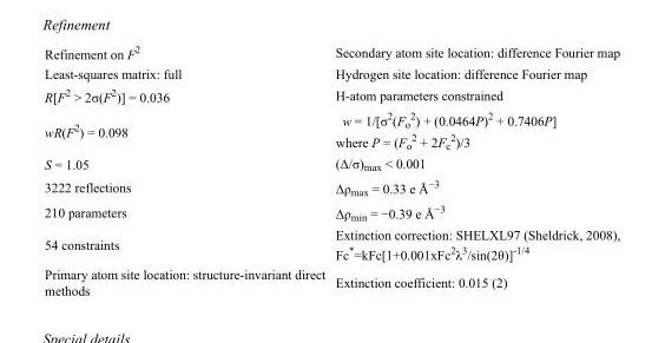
<table><tbody><tr><td>Refinement on F<sup>2</sup></td><td>Secondary atom site location: difference Fourier map</td></tr><tr><td>Least-squares matrix: full</td><td>Hydrogen site location: difference Fourier map</td></tr><tr><td>R[F<sup>2</sup> &gt; 2σ(F<sup>2</sup>)] = 0.036</td><td>H-atom parameters constrained</td></tr><tr><td>wR(F<sup>2</sup>) = 0.098</td><td>w = 1/[σ<sup>2</sup>(F<sub>o</sub> <sup>2</sup>) + (0.0464P)<sup>2</sup> + 0.7406P] where P = (F<sub>o</sub> <sup>2</sup> + 2F<sub>c</sub> <sup>2</sup>)/3</td></tr><tr><td>S = 1.05</td><td>(Δ/σ)<sub>max</sub> &lt; 0.001</td></tr><tr><td>3222 reflections</td><td>Δρ<sub>max</sub> = 0.33 e Å<sup>−3</sup></td></tr><tr><td>210 parameters</td><td>Δρ<sub>min</sub> = −0.39 e Å<sup>−3</sup></td></tr><tr><td>54 constraints</td><td>Extinction correction: SHELXL97 (Sheldrick, 2008), Fc*=kFc[1+0.001xFc<sup>2</sup>λ<sup>3</sup>/sin(2θ)]<sup>-1/4</sup></td></tr><tr><td>Primary atom site location: structure-invariant direct methods</td><td>Extinction coefficient: 0.015 (2)</td></tr></tbody></table>